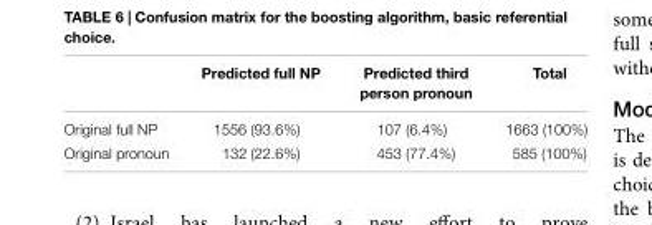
<table><thead><tr><td></td><td>Predicted full NP</td><td>Predicted third person pronoun</td><td>Total</td></tr></thead><tbody><tr><td>Original full NP</td><td>1556 (93.6%)</td><td>107 (6.4%)</td><td>1663 (100%)</td></tr><tr><td>Original pronoun</td><td>132 (22.6%)</td><td>453 (77.4%)</td><td>585 (100%)</td></tr></tbody></table>